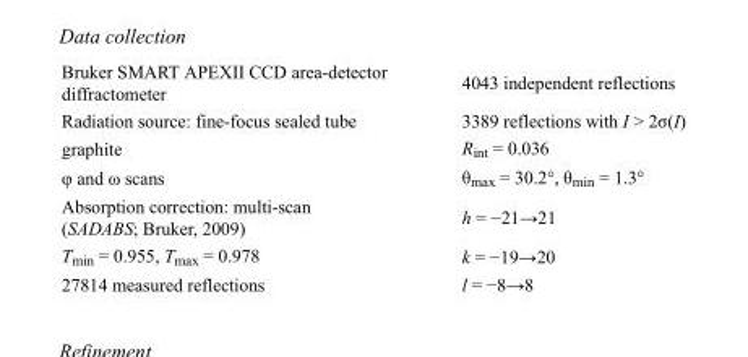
<table><tbody><tr><td>Bruker SMART APEXII CCD area-detector diffractometer</td><td>4043 independent reflections</td></tr><tr><td>Radiation source: fine-focus sealed tube</td><td>3389 reflections with I &gt; 2σ(I)</td></tr><tr><td>graphite</td><td>R<sub>int</sub> = 0.036</td></tr><tr><td>φ and ω scans</td><td>θ<sub>max</sub> = 30.2°, θ<sub>min</sub> = 1.3°</td></tr><tr><td>Absorption correction: multi-scan (SADABS; Bruker, 2009)</td><td>h = −21→21</td></tr><tr><td>T<sub>min</sub> = 0.955, T<sub>max</sub> = 0.978</td><td>k = −19→20</td></tr><tr><td>27814 measured reflections</td><td>l = −8→8</td></tr></tbody></table>